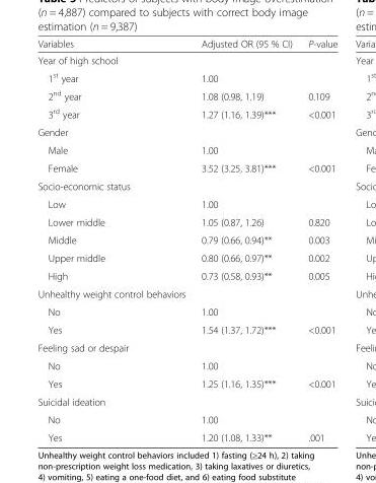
<table><thead><tr><td>Variables</td><td>Adjusted OR (95 % CI)</td><td>P-value</td></tr></thead><tbody><tr><td colspan="3">Year of high school</td></tr><tr><td>1<sup>st</sup> year</td><td>1.00</td><td></td></tr><tr><td>2<sup>nd</sup> year</td><td>1.08 (0.98, 1.19)</td><td>0.109</td></tr><tr><td>3<sup>rd</sup> year</td><td>1.27 (1.16, 1.39)***</td><td>&lt;0.001</td></tr><tr><td colspan="3">Gender</td></tr><tr><td>Male</td><td>1.00</td><td></td></tr><tr><td>Female</td><td>3.52 (3.25, 3.81)***</td><td>&lt;0.001</td></tr><tr><td colspan="3">Socio-economic status</td></tr><tr><td>Low</td><td>1.00</td><td></td></tr><tr><td>Lower middle</td><td>1.05 (0.87, 1.26)</td><td>0.820</td></tr><tr><td>Middle</td><td>0.79 (0.66, 0.94)**</td><td>0.003</td></tr><tr><td>Upper middle</td><td>0.80 (0.66, 0.97)**</td><td>0.002</td></tr><tr><td>High</td><td>0.73 (0.58, 0.93)**</td><td>0.005</td></tr><tr><td colspan="3">Unhealthy weight control behaviors</td></tr><tr><td>No</td><td>1.00</td><td></td></tr><tr><td>Yes</td><td>1.54 (1.37, 1.72)***</td><td>&lt;0.001</td></tr><tr><td colspan="3">Feeling sad or despair</td></tr><tr><td>No</td><td>1.00</td><td></td></tr><tr><td>Yes</td><td>1.25 (1.16, 1.35)***</td><td>&lt;0.001</td></tr><tr><td colspan="3">Suicidal ideation</td></tr><tr><td>No</td><td>1.00</td><td></td></tr><tr><td>Yes</td><td>1.20 (1.08, 1.33)**</td><td>.001</td></tr></tbody></table>